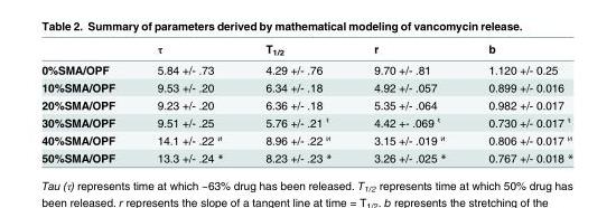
<table><thead><tr><td></td><td>τ</td><td>T<sub>1/2</sub></td><td>r</td><td>b</td></tr></thead><tbody><tr><td>0%SMA/OPF</td><td>5.84 +/- .73</td><td>4.29 +/- .76</td><td>9.70 +/- .81</td><td>1.120 +/- 0.25</td></tr><tr><td>10%SMA/OPF</td><td>9.53 +/- .20</td><td>6.34 +/- .18</td><td>4.92 +/- .057</td><td>0.899 +/- 0.016</td></tr><tr><td>20%SMA/OPF</td><td>9.23 +/- .20</td><td>6.36 +/- .18</td><td>5.35 +/- .064</td><td>0.982 +/- 0.017</td></tr><tr><td>30%SMA/OPF</td><td>9.51 +/- .25</td><td>5.76 +/- .21 <sup>ᵵ</sup></td><td>4.42 +- .069 <sup>ᵵ</sup></td><td>0.730 +/- 0.017 <sup>ᵵ</sup></td></tr><tr><td>40%SMA/OPF</td><td>14.1 +/- .22 ᴻ</td><td>8.96 +/- .22 ᴻ</td><td>3.15 +/- .019 ᴻ</td><td>0.806 +/- 0.017 ᴻ</td></tr><tr><td>50%SMA/OPF</td><td>13.3 +/- .24 *</td><td>8.23 +/- .23 *</td><td>3.26 +/- .025 *</td><td>0.767 +/- 0.018 *</td></tr></tbody></table>